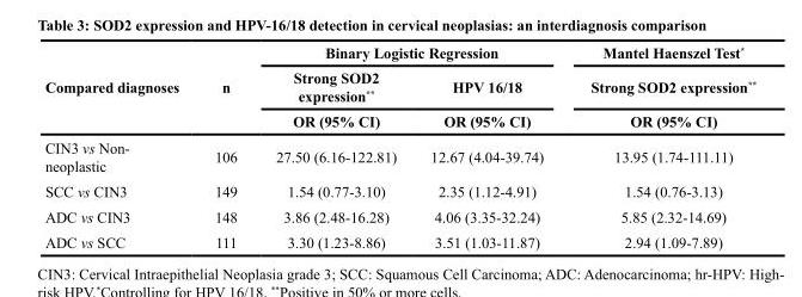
<table><thead><tr><td rowspan="3">Compared diagnoses</td><td rowspan="3">n</td><td colspan="2">Binary Logistic Regression</td><td rowspan="3">Mantel Haenszel Test* Strong SOD2 expression** OR (95% CI)</td></tr><tr><td rowspan="2">Strong SOD2 expression** OR (95% CI)</td><td rowspan="2">HPV 16/18 OR (95% CI)</td></tr><tr></tr></thead><tbody><tr><td>CIN3 vs Non- neoplastic</td><td>106</td><td>27.50 (6.16-122.81)</td><td>12.67 (4.04-39.74)</td><td>13.95 (1.74-111.11)</td></tr><tr><td>SCC vs CIN3</td><td>149</td><td>1.54 (0.77-3.10)</td><td>2.35 (1.12-4.91)</td><td>1.54 (0.76-3.13)</td></tr><tr><td>ADC vs CIN3</td><td>148</td><td>3.86 (2.48-16.28)</td><td>4.06 (3.35-32.24)</td><td>5.85 (2.32-14.69)</td></tr><tr><td>ADC vs SCC</td><td>111</td><td>3.30 (1.23-8.86)</td><td>3.51 (1.03-11.87)</td><td>2.94 (1.09-7.89)</td></tr></tbody></table>